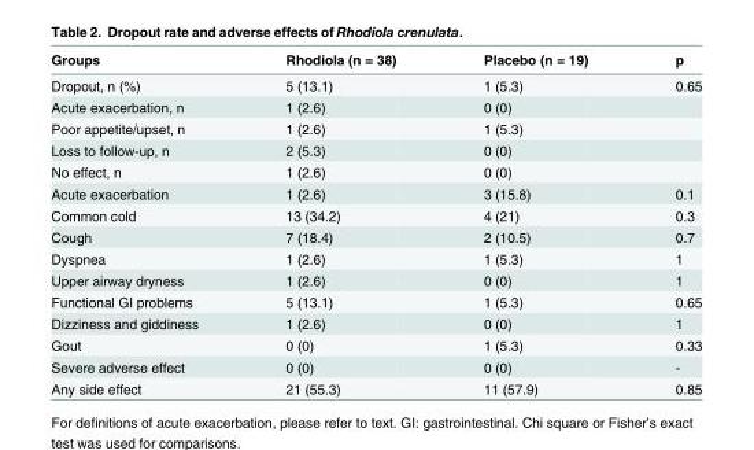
<table><thead><tr><td>Groups</td><td>Rhodiola (n = 38)</td><td>Placebo (n = 19)</td><td>p</td></tr></thead><tbody><tr><td>Dropout, n (%)</td><td>5 (13.1)</td><td>1 (5.3)</td><td>0.65</td></tr><tr><td>Acute exacerbation, n</td><td>1 (2.6)</td><td>0 (0)</td><td></td></tr><tr><td>Poor appetite/upset, n</td><td>1 (2.6)</td><td>1 (5.3)</td><td></td></tr><tr><td>Loss to follow-up, n</td><td>2 (5.3)</td><td>0 (0)</td><td></td></tr><tr><td>No effect, n</td><td>1 (2.6)</td><td>0 (0)</td><td></td></tr><tr><td>Acute exacerbation</td><td>1 (2.6)</td><td>3 (15.8)</td><td>0.1</td></tr><tr><td>Common cold</td><td>13 (34.2)</td><td>4 (21)</td><td>0.3</td></tr><tr><td>Cough</td><td>7 (18.4)</td><td>2 (10.5)</td><td>0.7</td></tr><tr><td>Dyspnea</td><td>1 (2.6)</td><td>1 (5.3)</td><td>1</td></tr><tr><td>Upper airway dryness</td><td>1 (2.6)</td><td>0 (0)</td><td>1</td></tr><tr><td>Functional GI problems</td><td>5 (13.1)</td><td>1 (5.3)</td><td>0.65</td></tr><tr><td>Dizziness and giddiness</td><td>1 (2.6)</td><td>0 (0)</td><td>1</td></tr><tr><td>Gout</td><td>0 (0)</td><td>1 (5.3)</td><td>0.33</td></tr><tr><td>Severe adverse effect</td><td>0 (0)</td><td>0 (0)</td><td>-</td></tr><tr><td>Any side effect</td><td>21 (55.3)</td><td>11 (57.9)</td><td>0.85</td></tr></tbody></table>